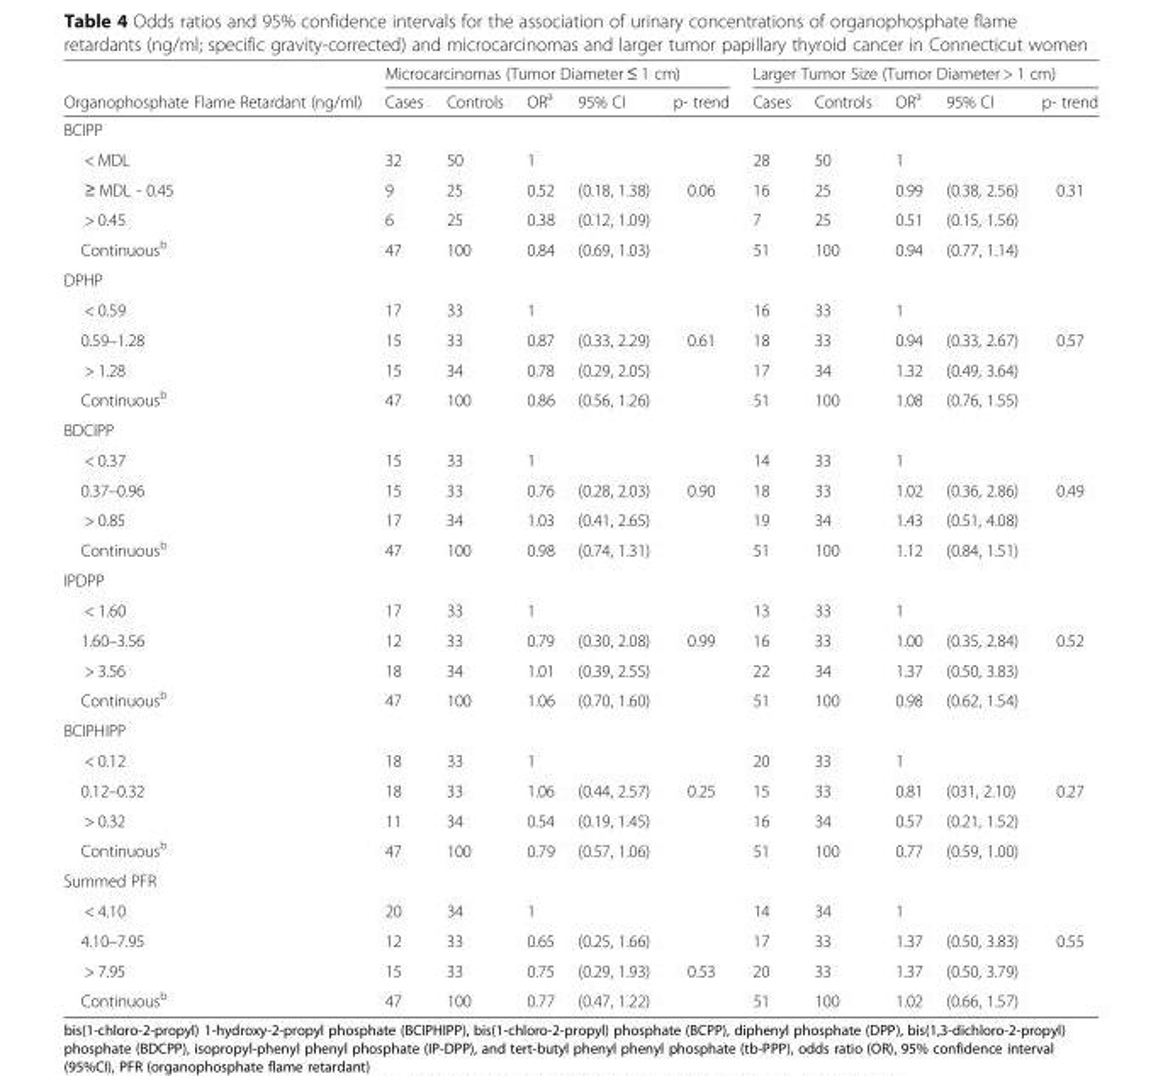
<table><thead><tr><td rowspan="2">Organophosphate Flame Retardant (ng/ml)</td><td colspan="5">Microcarcinomas (Tumor Diameter ≤ 1 cm)</td><td colspan="5">Larger Tumor Size (Tumor Diameter &gt; 1 cm)</td></tr><tr><td>Cases</td><td>Controls</td><td>OR<sup>a</sup></td><td>95% CI</td><td>p- trend</td><td>Cases</td><td>Controls</td><td>OR<sup>a</sup></td><td>95% CI</td><td>p- trend</td></tr></thead><tbody><tr><td colspan="11">BCIPP</td></tr><tr><td>&lt; MDL</td><td>32</td><td>50</td><td>1</td><td></td><td></td><td>28</td><td>50</td><td>1</td><td></td><td></td></tr><tr><td>≥ MDL - 0.45</td><td>9</td><td>25</td><td>0.52</td><td>(0.18, 1.38)</td><td rowspan="2">0.06</td><td>16</td><td>25</td><td>0.99</td><td>(0.38, 2.56)</td><td rowspan="2">0.31</td></tr><tr><td>&gt; 0.45</td><td>6</td><td>25</td><td>0.38</td><td>(0.12, 1.09)</td><td>7</td><td>25</td><td>0.51</td><td>(0.15, 1.56)</td></tr><tr><td>Continuous<sup>b</sup></td><td>47</td><td>100</td><td>0.84</td><td>(0.69, 1.03)</td><td></td><td>51</td><td>100</td><td>0.94</td><td>(0.77, 1.14)</td><td></td></tr><tr><td colspan="11">DPHP</td></tr><tr><td>&lt; 0.59</td><td>17</td><td>33</td><td>1</td><td></td><td></td><td>16</td><td>33</td><td>1</td><td></td><td></td></tr><tr><td>0.59–1.28</td><td>15</td><td>33</td><td>0.87</td><td>(0.33, 2.29)</td><td rowspan="2">0.61</td><td>18</td><td>33</td><td>0.94</td><td>(0.33, 2.67)</td><td rowspan="2">0.57</td></tr><tr><td>&gt; 1.28</td><td>15</td><td>34</td><td>0.78</td><td>(0.29, 2.05)</td><td>17</td><td>34</td><td>1.32</td><td>(0.49, 3.64)</td></tr><tr><td>Continuous<sup>b</sup></td><td>47</td><td>100</td><td>0.86</td><td>(0.56, 1.26)</td><td></td><td>51</td><td>100</td><td>1.08</td><td>(0.76, 1.55)</td><td></td></tr><tr><td colspan="11">BDCIPP</td></tr><tr><td>&lt; 0.37</td><td>15</td><td>33</td><td>1</td><td></td><td></td><td>14</td><td>33</td><td>1</td><td></td><td></td></tr><tr><td>0.37–0.96</td><td>15</td><td>33</td><td>0.76</td><td>(0.28, 2.03)</td><td rowspan="2">0.90</td><td>18</td><td>33</td><td>1.02</td><td>(0.36, 2.86)</td><td rowspan="2">0.49</td></tr><tr><td>&gt; 0.85</td><td>17</td><td>34</td><td>1.03</td><td>(0.41, 2.65)</td><td>19</td><td>34</td><td>1.43</td><td>(0.51, 4.08)</td></tr><tr><td>Continuous<sup>b</sup></td><td>47</td><td>100</td><td>0.98</td><td>(0.74, 1.31)</td><td></td><td>51</td><td>100</td><td>1.12</td><td>(0.84, 1.51)</td><td></td></tr><tr><td colspan="11">IPDPP</td></tr><tr><td>&lt; 1.60</td><td>17</td><td>33</td><td>1</td><td></td><td></td><td>13</td><td>33</td><td>1</td><td></td><td></td></tr><tr><td>1.60–3.56</td><td>12</td><td>33</td><td>0.79</td><td>(0.30, 2.08)</td><td rowspan="2">0.99</td><td>16</td><td>33</td><td>1.00</td><td>(0.35, 2.84)</td><td rowspan="2">0.52</td></tr><tr><td>&gt; 3.56</td><td>18</td><td>34</td><td>1.01</td><td>(0.39, 2.55)</td><td>22</td><td>34</td><td>1.37</td><td>(0.50, 3.83)</td></tr><tr><td>Continuous<sup>b</sup></td><td>47</td><td>100</td><td>1.06</td><td>(0.70, 1.60)</td><td></td><td>51</td><td>100</td><td>0.98</td><td>(0.62, 1.54)</td><td></td></tr><tr><td colspan="11">BCIPHIPP</td></tr><tr><td>&lt; 0.12</td><td>18</td><td>33</td><td>1</td><td></td><td></td><td>20</td><td>33</td><td>1</td><td></td><td></td></tr><tr><td>0.12–0.32</td><td>18</td><td>33</td><td>1.06</td><td>(0.44, 2.57)</td><td rowspan="2">0.25</td><td>15</td><td>33</td><td>0.81</td><td>(031, 2.10)</td><td rowspan="2">0.27</td></tr><tr><td>&gt; 0.32</td><td>11</td><td>34</td><td>0.54</td><td>(0.19, 1.45)</td><td>16</td><td>34</td><td>0.57</td><td>(0.21, 1.52)</td></tr><tr><td>Continuous<sup>b</sup></td><td>47</td><td>100</td><td>0.79</td><td>(0.57, 1.06)</td><td></td><td>51</td><td>100</td><td>0.77</td><td>(0.59, 1.00)</td><td></td></tr><tr><td colspan="11">Summed PFR</td></tr><tr><td>&lt; 4.10</td><td>20</td><td>34</td><td>1</td><td></td><td></td><td>14</td><td>34</td><td>1</td><td></td><td></td></tr><tr><td>4.10–7.95</td><td>12</td><td>33</td><td>0.65</td><td>(0.25, 1.66)</td><td></td><td>17</td><td>33</td><td>1.37</td><td>(0.50, 3.83)</td><td rowspan="2">0.55</td></tr><tr><td>&gt; 7.95</td><td>15</td><td>33</td><td>0.75</td><td>(0.29, 1.93)</td><td>0.53</td><td>20</td><td>33</td><td>1.37</td><td>(0.50, 3.79)</td></tr><tr><td>Continuous<sup>b</sup></td><td>47</td><td>100</td><td>0.77</td><td>(0.47, 1.22)</td><td></td><td>51</td><td>100</td><td>1.02</td><td>(0.66, 1.57)</td><td></td></tr></tbody></table>